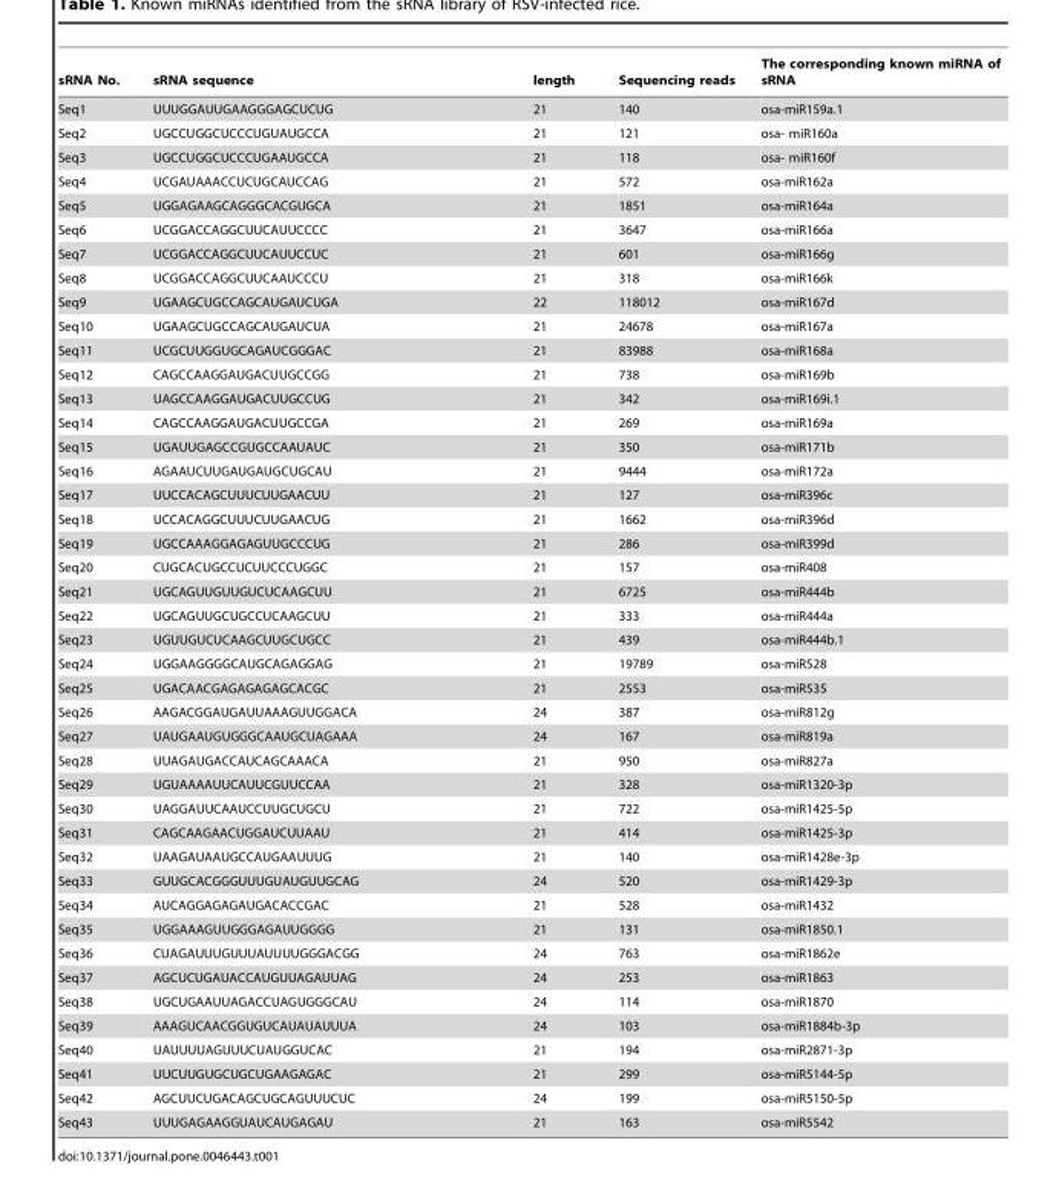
<table><thead><tr><td>sRNA No.</td><td>sRNA sequence</td><td>length</td><td>Sequencing reads</td><td>The corresponding known miRNA of sRNA</td></tr></thead><tbody><tr><td>Seq1</td><td>UUUGGAUUGAAGGGAGCUCUG</td><td>21</td><td>140</td><td>osa-miR159a.1</td></tr><tr><td>Seq2</td><td>UGCCUGGCUCCCUGUAUGCCA</td><td>21</td><td>121</td><td>osa- miR160a</td></tr><tr><td>Seq3</td><td>UGCCUGGCUCCCUGAAUGCCA</td><td>21</td><td>118</td><td>osa- miR160f</td></tr><tr><td>Seq4</td><td>UCGAUAAACCUCUGCAUCCAG</td><td>21</td><td>572</td><td>osa-miR162a</td></tr><tr><td>Seq5</td><td>UGGAGAAGCAGGGCACGUGCA</td><td>21</td><td>1851</td><td>osa-miR164a</td></tr><tr><td>Seq6</td><td>UCGGACCAGGCUUCAUUCCCC</td><td>21</td><td>3647</td><td>osa-miR166a</td></tr><tr><td>Seq7</td><td>UCGGACCAGGCUUCAUUCCUC</td><td>21</td><td>601</td><td>osa-miR166g</td></tr><tr><td>Seq8</td><td>UCGGACCAGGCUUCAAUCCCU</td><td>21</td><td>318</td><td>osa-miR166k</td></tr><tr><td>Seq9</td><td>UGAAGCUGCCAGCAUGAUCUGA</td><td>22</td><td>118012</td><td>osa-miR167d</td></tr><tr><td>Seq10</td><td>UGAAGCUGCCAGCAUGAUCUA</td><td>21</td><td>24678</td><td>osa-miR167a</td></tr><tr><td>Seq11</td><td>UCGCUUGGUGCAGAUCGGGAC</td><td>21</td><td>83988</td><td>osa-miR168a</td></tr><tr><td>Seq12</td><td>CAGCCAAGGAUGACUUGCCGG</td><td>21</td><td>738</td><td>osa-miR169b</td></tr><tr><td>Seq13</td><td>UAGCCAAGGAUGACUUGCCUG</td><td>21</td><td>342</td><td>osa-miR169i.1</td></tr><tr><td>Seq14</td><td>CAGCCAAGGAUGACUUGCCGA</td><td>21</td><td>269</td><td>osa-miR169a</td></tr><tr><td>Seq15</td><td>UGAUUGAGCCGUGCCAAUAUC</td><td>21</td><td>350</td><td>osa-miR171b</td></tr><tr><td>Seq16</td><td>AGAAUCUUGAUGAUGCUGCAU</td><td>21</td><td>9444</td><td>osa-miR172a</td></tr><tr><td>Seq17</td><td>UUCCACAGCUUUCUUGAACUU</td><td>21</td><td>127</td><td>osa-miR396c</td></tr><tr><td>Seq18</td><td>UCCACAGGCUUUCUUGAACUG</td><td>21</td><td>1662</td><td>osa-miR396d</td></tr><tr><td>Seq19</td><td>UGCCAAAGGAGAGUUGCCCUG</td><td>21</td><td>286</td><td>osa-miR399d</td></tr><tr><td>Seq20</td><td>CUGCACUGCCUCUUCCCUGGC</td><td>21</td><td>157</td><td>osa-miR408</td></tr><tr><td>Seq21</td><td>UGCAGUUGUUGUCUCAAGCUU</td><td>21</td><td>6725</td><td>osa-miR444b</td></tr><tr><td>Seq22</td><td>UGCAGUUGCUGCCUCAAGCUU</td><td>21</td><td>333</td><td>osa-miR444a</td></tr><tr><td>Seq23</td><td>UGUUGUCUCAAGCUUGCUGCC</td><td>21</td><td>439</td><td>osa-miR444b.1</td></tr><tr><td>Seq24</td><td>UGGAAGGGGCAUGCAGAGGAG</td><td>21</td><td>19789</td><td>osa-miR528</td></tr><tr><td>Seq25</td><td>UGACAACGAGAGAGAGCACGC</td><td>21</td><td>2553</td><td>osa-miR535</td></tr><tr><td>Seq26</td><td>AAGACGGAUGAUUAAAGUUGGACA</td><td>24</td><td>387</td><td>osa-miR812g</td></tr><tr><td>Seq27</td><td>UAUGAAUGUGGGCAAUGCUAGAAA</td><td>24</td><td>167</td><td>osa-miR819a</td></tr><tr><td>Seq28</td><td>UUAGAUGACCAUCAGCAAACA</td><td>21</td><td>950</td><td>osa-miR827a</td></tr><tr><td>Seq29</td><td>UGUAAAAUUCAUUCGUUCCAA</td><td>21</td><td>328</td><td>osa-miR1320-3p</td></tr><tr><td>Seq30</td><td>UAGGAUUCAAUCCUUGCUGCU</td><td>21</td><td>722</td><td>osa-miR1425-5p</td></tr><tr><td>Seq31</td><td>CAGCAAGAACUGGAUCUUAAU</td><td>21</td><td>414</td><td>osa-miR1425-3p</td></tr><tr><td>Seq32</td><td>UAAGAUAAUGCCAUGAAUUUG</td><td>21</td><td>140</td><td>osa-miR1428e-3p</td></tr><tr><td>Seq33</td><td>GUUGCACGGGUUUGUAUGUUGCAG</td><td>24</td><td>520</td><td>osa-miR1429-3p</td></tr><tr><td>Seq34</td><td>AUCAGGAGAGAUGACACCGAC</td><td>21</td><td>528</td><td>osa-miR1432</td></tr><tr><td>Seq35</td><td>UGGAAAGUUGGGAGAUUGGGG</td><td>21</td><td>131</td><td>osa-miR1850.1</td></tr><tr><td>Seq36</td><td>CUAGAUUUGUUUAUUUUGGGACGG</td><td>24</td><td>763</td><td>osa-miR1862e</td></tr><tr><td>Seq37</td><td>AGCUCUGAUACCAUGUUAGAUUAG</td><td>24</td><td>253</td><td>osa-miR1863</td></tr><tr><td>Seq38</td><td>UGCUGAAUUAGACCUAGUGGGCAU</td><td>24</td><td>114</td><td>osa-miR1870</td></tr><tr><td>Seq39</td><td>AAAGUCAACGGUGUCAUAUAUUUA</td><td>24</td><td>103</td><td>osa-miR1884b-3p</td></tr><tr><td>Seq40</td><td>UAUUUUAGUUUCUAUGGUCAC</td><td>21</td><td>194</td><td>osa-miR2871-3p</td></tr><tr><td>Seq41</td><td>UUCUUGUGCUGCUGAAGAGAC</td><td>21</td><td>299</td><td>osa-miR5144-5p</td></tr><tr><td>Seq42</td><td>AGCUUCUGACAGCUGCAGUUUCUC</td><td>24</td><td>199</td><td>osa-miR5150-5p</td></tr><tr><td>Seq43</td><td>UUUGAGAAGGUAUCAUGAGAU</td><td>21</td><td>163</td><td>osa-miR5542</td></tr></tbody></table>